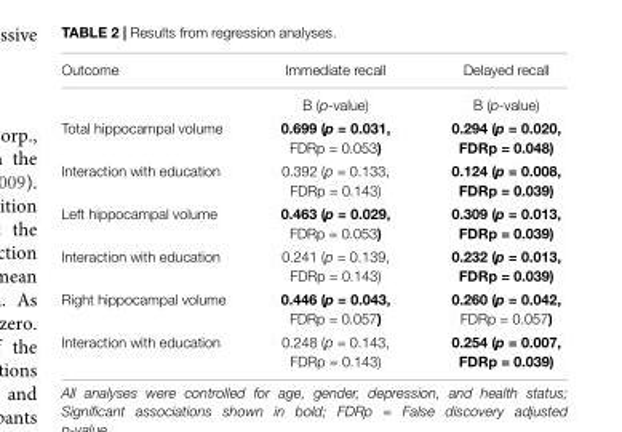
<table><thead><tr><td>Outcome</td><td>Immediate recall</td><td>Delayed recall</td></tr></thead><tbody><tr><td></td><td>B (p-value)</td><td>B (p-value)</td></tr><tr><td>Total hippocampal volume</td><td>0.699 (p = 0.031, FDRp = 0.053)</td><td>0.294 (p = 0.020, FDRp = 0.048)</td></tr><tr><td>Interaction with education</td><td>0.392 (p = 0.133, FDRp = 0.143)</td><td>0.124 (p = 0.008, FDRp = 0.039)</td></tr><tr><td>Left hippocampal volume</td><td>0.463 (p = 0.029, FDRp = 0.053)</td><td>0.309 (p = 0.013, FDRp = 0.039)</td></tr><tr><td>Interaction with education</td><td>0.241 (p = 0.139, FDRp = 0.143)</td><td>0.232 (p = 0.013, FDRp = 0.039)</td></tr><tr><td>Right hippocampal volume</td><td>0.446 (p = 0.043, FDRp = 0.057)</td><td>0.260 (p = 0.042, FDRp = 0.057)</td></tr><tr><td>Interaction with education</td><td>0.248 (p = 0.143, FDRp = 0.143)</td><td>0.254 (p = 0.007, FDRp = 0.039)</td></tr></tbody></table>